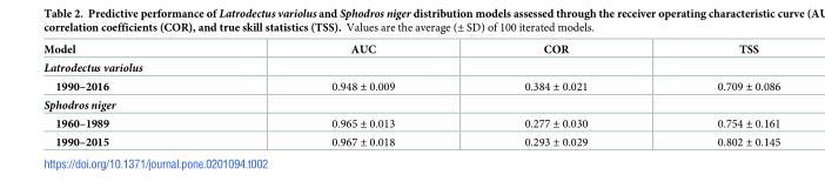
<table><thead><tr><td>Model</td><td>AUC</td><td>COR</td><td>TSS</td></tr></thead><tbody><tr><td colspan="4">Latrodectus variolus</td></tr><tr><td>1990–2016</td><td>0.948 ± 0.009</td><td>0.384 ± 0.021</td><td>0.709 ± 0.086</td></tr><tr><td colspan="4">Sphodros niger</td></tr><tr><td>1960–1989</td><td>0.965 ± 0.013</td><td>0.277 ± 0.030</td><td>0.754 ± 0.161</td></tr><tr><td>1990–2015</td><td>0.967 ± 0.018</td><td>0.293 ± 0.029</td><td>0.802 ± 0.145</td></tr></tbody></table>